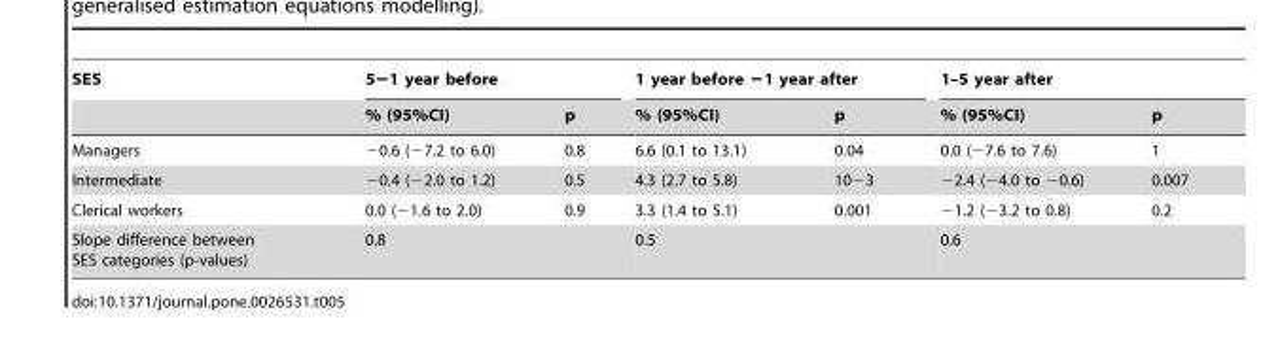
<table><thead><tr><td rowspan="2">SES</td><td colspan="2">5−1 year before</td><td colspan="2">1 year before −1 year after</td><td colspan="2">1–5 year after</td></tr><tr><td>% (95%CI)</td><td>p</td><td>% (95%CI)</td><td>p</td><td>% (95%CI)</td><td>p</td></tr></thead><tbody><tr><td>Managers</td><td>−0.6 (−7.2 to 6.0)</td><td>0.8</td><td>6.6 (0.1 to 13.1)</td><td>0.04</td><td>0.0 (−7.6 to 7.6)</td><td>1</td></tr><tr><td>Intermediate</td><td>−0.4 (−2.0 to 1.2)</td><td>0.5</td><td>4.3 (2.7 to 5.8)</td><td>10−3</td><td>−2.4 (−4.0 to −0.6)</td><td>0.007</td></tr><tr><td>Clerical workers</td><td>0.0 (−1.6 to 2.0)</td><td>0.9</td><td>3.3 (1.4 to 5.1)</td><td>0.001</td><td>−1.2 (−3.2 to 0.8)</td><td>0.2</td></tr><tr><td>Slope difference between SES categories (p-values)</td><td colspan="2">0.8</td><td colspan="2">0.5</td><td colspan="2">0.6</td></tr></tbody></table>